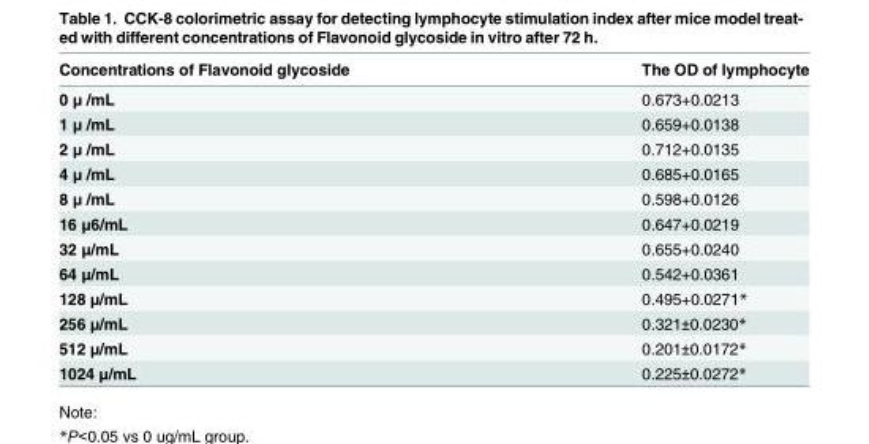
<table><thead><tr><td>Concentrations of Flavonoid glycoside</td><td>The OD of lymphocyte</td></tr></thead><tbody><tr><td>0 μ /mL</td><td>0.673+0.0213</td></tr><tr><td>1 μ /mL</td><td>0.659+0.0138</td></tr><tr><td>2 μ /mL</td><td>0.712+0.0135</td></tr><tr><td>4 μ /mL</td><td>0.685+0.0165</td></tr><tr><td>8 μ /mL</td><td>0.598+0.0126</td></tr><tr><td>16 μ6/mL</td><td>0.647+0.0219</td></tr><tr><td>32 μ/mL</td><td>0.655+0.0240</td></tr><tr><td>64 μ/mL</td><td>0.542+0.0361</td></tr><tr><td>128 μ/mL</td><td>0.495+0.0271*</td></tr><tr><td>256 μ/mL</td><td>0.321±0.0230*</td></tr><tr><td>512 μ/mL</td><td>0.201±0.0172*</td></tr><tr><td>1024 μ/mL</td><td>0.225±0.0272*</td></tr></tbody></table>